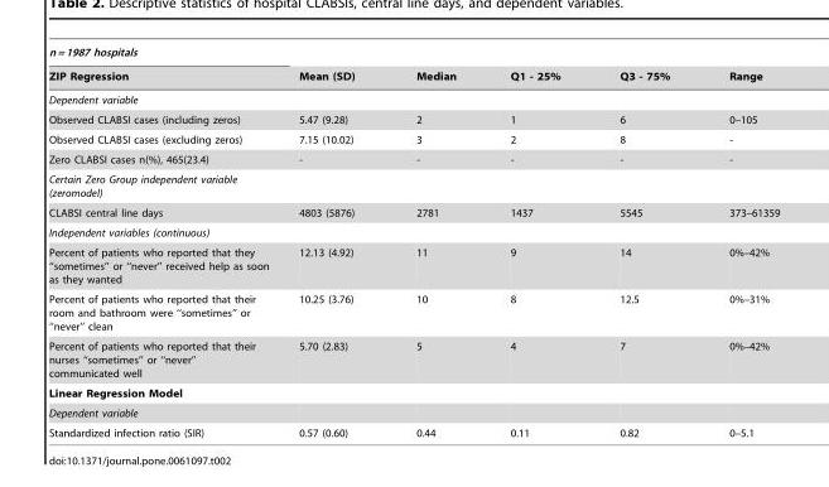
<table><thead><tr><td rowspan="2">n = 1987 hospitals ZIP Regression</td><td rowspan="2">Mean (SD)</td><td rowspan="2">Median</td><td rowspan="2">Q1 - 25%</td><td rowspan="2">Q3 - 75%</td><td rowspan="2">Range</td></tr><tr></tr></thead><tbody><tr><td colspan="6">Dependent variable</td></tr><tr><td>Observed CLABSI cases (including zeros)</td><td>5.47 (9.28)</td><td>2</td><td>1</td><td>6</td><td>0–105</td></tr><tr><td>Observed CLABSI cases (excluding zeros)</td><td>7.15 (10.02)</td><td>3</td><td>2</td><td>8</td><td>-</td></tr><tr><td>Zero CLABSI cases n(%), 465(23.4)</td><td>-</td><td>-</td><td>-</td><td>-</td><td>-</td></tr><tr><td colspan="6">Certain Zero Group independent variable (zeromodel)</td></tr><tr><td>CLABSI central line days</td><td>4803 (5876)</td><td>2781</td><td>1437</td><td>5545</td><td>373–61359</td></tr><tr><td colspan="6">Independent variables (continuous)</td></tr><tr><td>Percent of patients who reported that they ‘‘sometimes’’ or ‘‘never’’ received help as soon as they wanted</td><td>12.13 (4.92)</td><td>11</td><td>9</td><td>14</td><td>0%–42%</td></tr><tr><td>Percent of patients who reported that their room and bathroom were ‘‘sometimes’’ or ‘‘never’’ clean</td><td>10.25 (3.76)</td><td>10</td><td>8</td><td>12.5</td><td>0%–31%</td></tr><tr><td>Percent of patients who reported that their nurses ‘‘sometimes’’ or ‘‘never’’ communicated well</td><td>5.70 (2.83)</td><td>5</td><td>4</td><td>7</td><td>0%–42%</td></tr><tr><td colspan="6">Linear Regression Model</td></tr><tr><td colspan="6">Dependent variable</td></tr><tr><td>Standardized infection ratio (SIR)</td><td>0.57 (0.60)</td><td>0.44</td><td>0.11</td><td>0.82</td><td>0–5.1</td></tr></tbody></table>